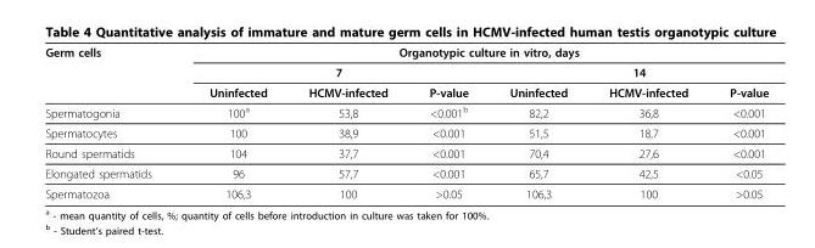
<table><thead><tr><td rowspan="3">Germ cells</td><td colspan="6">Organotypic culture in vitro, days</td></tr><tr><td colspan="3">7</td><td colspan="3">14</td></tr><tr><td>Uninfected</td><td>HCMV-infected</td><td>P-value</td><td>Uninfected</td><td>HCMV-infected</td><td>P-value</td></tr></thead><tbody><tr><td>Spermatogonia</td><td>100<sup>a</sup></td><td>53,8</td><td>&lt;0.001<sup>b</sup></td><td>82,2</td><td>36,8</td><td>&lt;0.001</td></tr><tr><td>Spermatocytes</td><td>100</td><td>38,9</td><td>&lt;0.001</td><td>51,5</td><td>18,7</td><td>&lt;0.001</td></tr><tr><td>Round spermatids</td><td>104</td><td>37,7</td><td>&lt;0.001</td><td>70,4</td><td>27,6</td><td>&lt;0.001</td></tr><tr><td>Elongated spermatids</td><td>96</td><td>57,7</td><td>&lt;0.001</td><td>65,7</td><td>42,5</td><td>&lt;0.05</td></tr><tr><td>Spermatozoa</td><td>106,3</td><td>100</td><td>&gt;0.05</td><td>106,3</td><td>100</td><td>&gt;0.05</td></tr></tbody></table>